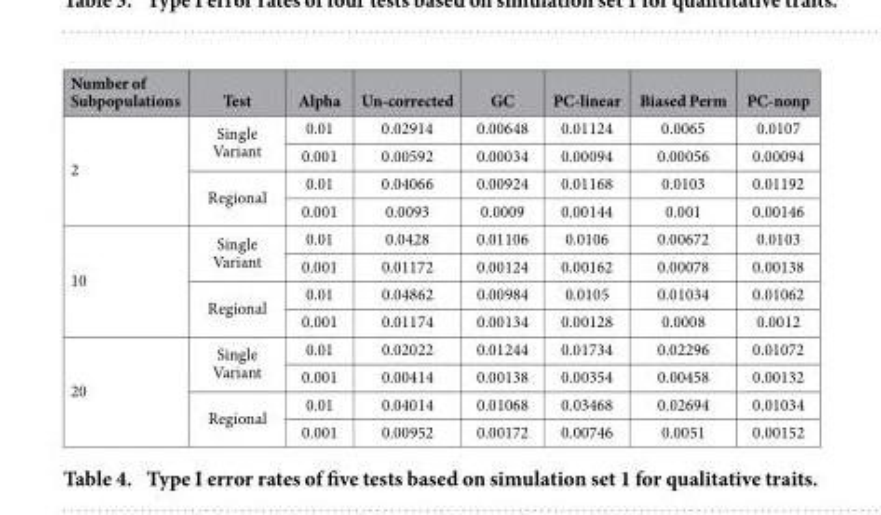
<table><thead><tr><td>Number of Subpopulations</td><td>Test</td><td>Alpha</td><td>Un-corrected</td><td>GC</td><td>PC-linear</td><td>Biased Perm</td><td>PC-nonp</td></tr></thead><tbody><tr><td rowspan="4">2</td><td rowspan="2">Single Variant</td><td>0.01</td><td>0.02914</td><td>0.00648</td><td>0.01124</td><td>0.0065</td><td>0.0107</td></tr><tr><td>0.001</td><td>0.00592</td><td>0.00034</td><td>0.00094</td><td>0.00056</td><td>0.00094</td></tr><tr><td rowspan="2">Regional</td><td>0.01</td><td>0.04066</td><td>0.00924</td><td>0.01168</td><td>0.0103</td><td>0.01192</td></tr><tr><td>0.001</td><td>0.0093</td><td>0.0009</td><td>0.00144</td><td>0.001</td><td>0.00146</td></tr><tr><td rowspan="4">10</td><td rowspan="2">Single Variant</td><td>0.01</td><td>0.0428</td><td>0.01106</td><td>0.0106</td><td>0.00672</td><td>0.0103</td></tr><tr><td>0.001</td><td>0.01172</td><td>0.00124</td><td>0.00162</td><td>0.00078</td><td>0.00138</td></tr><tr><td rowspan="2">Regional</td><td>0.01</td><td>0.04862</td><td>0.00984</td><td>0.0105</td><td>0.01034</td><td>0.01062</td></tr><tr><td>0.001</td><td>0.01174</td><td>0.00134</td><td>0.00128</td><td>0.0008</td><td>0.0012</td></tr><tr><td rowspan="4">20</td><td rowspan="2">Single Variant</td><td>0.01</td><td>0.02022</td><td>0.01244</td><td>0.01734</td><td>0.02296</td><td>0.01072</td></tr><tr><td>0.001</td><td>0.00414</td><td>0.00138</td><td>0.00354</td><td>0.00458</td><td>0.00132</td></tr><tr><td rowspan="2">Regional</td><td>0.01</td><td>0.04014</td><td>0.01068</td><td>0.03468</td><td>0.02694</td><td>0.01034</td></tr><tr><td>0.001</td><td>0.00952</td><td>0.00172</td><td>0.00746</td><td>0.0051</td><td>0.00152</td></tr></tbody></table>